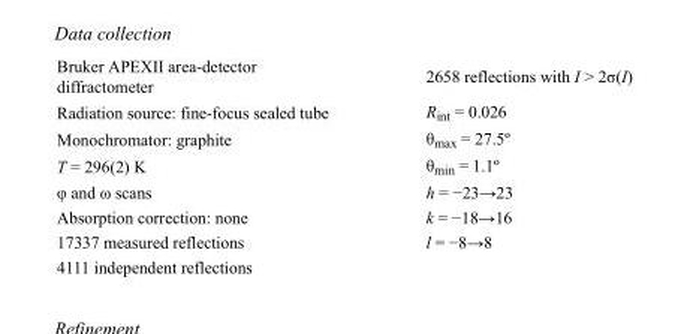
<table><tbody><tr><td>Bruker APEXII area-detector diffractometer</td><td>2658 reflections with I &gt; 2σ(I)</td></tr><tr><td>Radiation source: fine-focus sealed tube</td><td>R<sub>int</sub> = 0.026</td></tr><tr><td>Monochromator: graphite</td><td>θ<sub>max</sub> = 27.5º</td></tr><tr><td>T = 296(2) K</td><td>θ<sub>min</sub> = 1.1º</td></tr><tr><td>φ and ω scans</td><td>h = −23→23</td></tr><tr><td>Absorption correction: none</td><td>k = −18→16</td></tr><tr><td>17337 measured reflections</td><td>l = −8→8</td></tr><tr><td>4111 independent reflections</td><td></td></tr></tbody></table>